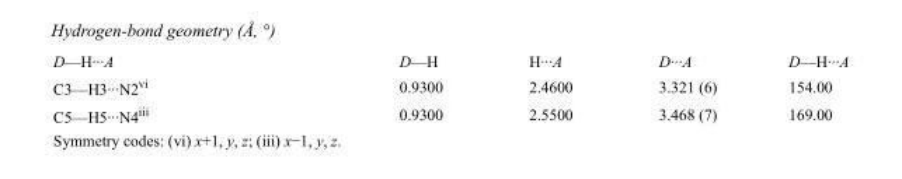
<table><tbody><tr><td>D—H···A</td><td>D—H</td><td>H···A</td><td>D···A</td><td>D—H···A</td></tr><tr><td>C3—H3···N2<sup>vi</sup></td><td>0.9300</td><td>2.4600</td><td>3.321 (6)</td><td>154.00</td></tr><tr><td>C5—H5···N4<sup>iii</sup></td><td>0.9300</td><td>2.5500</td><td>3.468 (7)</td><td>169.00</td></tr></tbody></table>